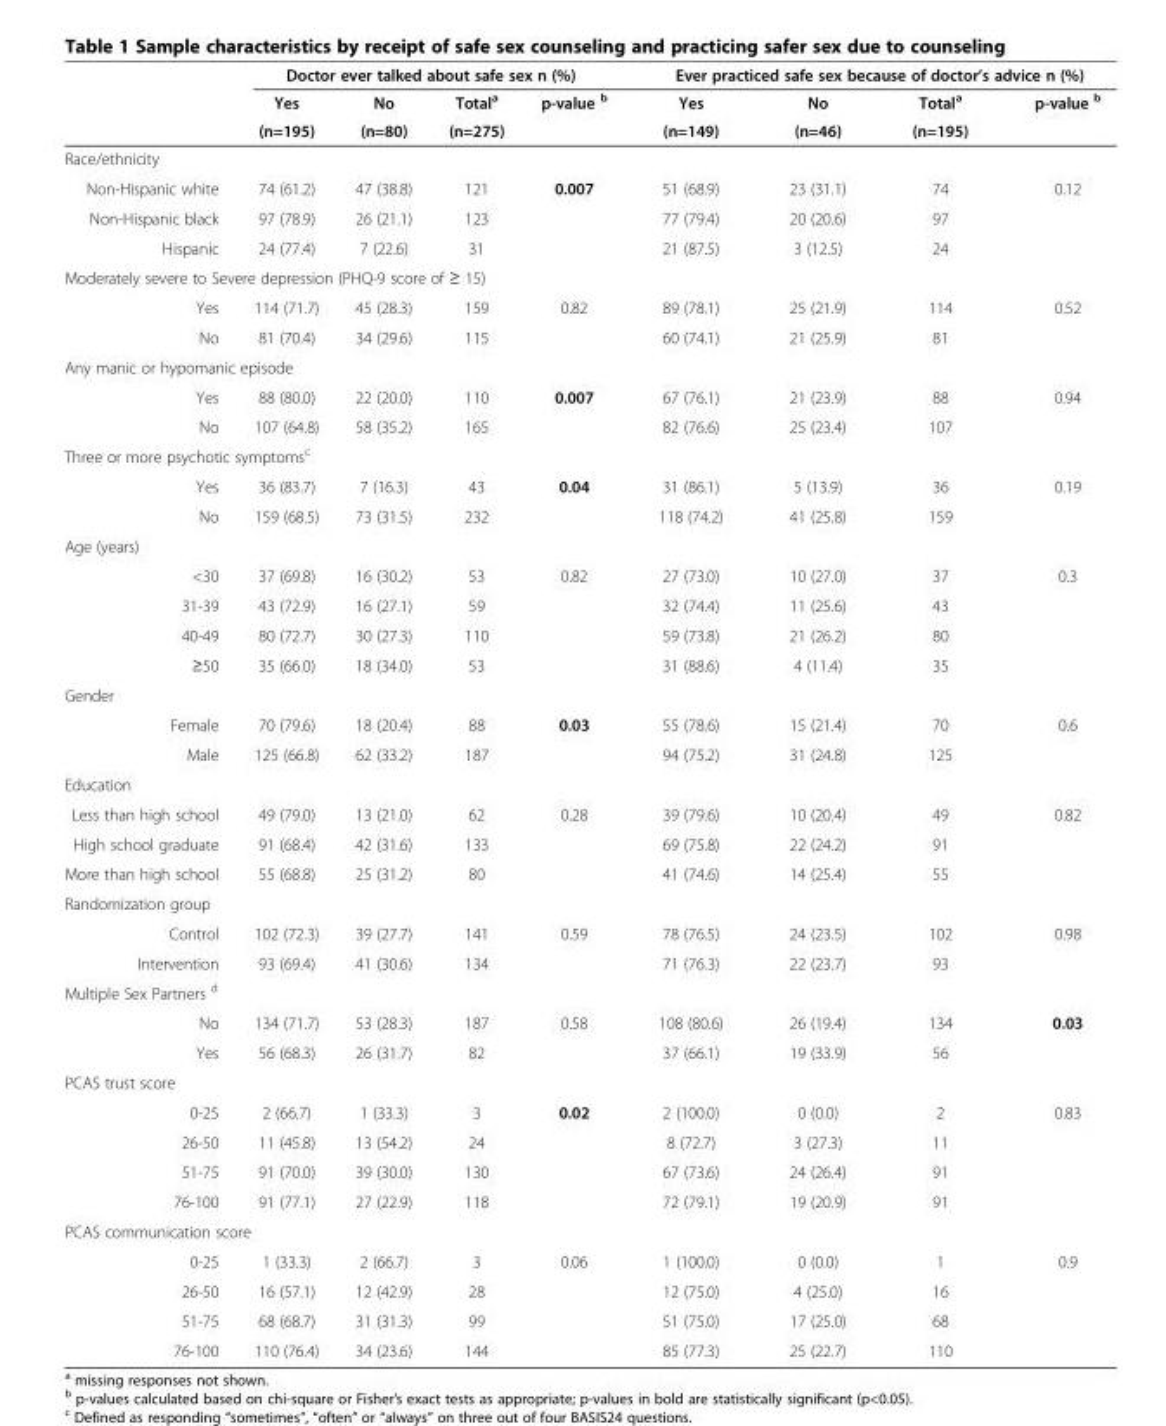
<table><thead><tr><td rowspan="3"></td><td colspan="4">Doctor ever talked about safe sex n (%)</td><td colspan="4">Ever practiced safe sex because of doctor’s advice n (%)</td></tr><tr><td rowspan="2">Yes (n=195)</td><td rowspan="2">No (n=80)</td><td rowspan="2">Total<sup>a</sup> (n=275)</td><td rowspan="2">p-value <sup>b</sup></td><td rowspan="2">Yes (n=149)</td><td rowspan="2">No (n=46)</td><td rowspan="2">Total<sup>a</sup> (n=195)</td><td rowspan="2">p-value <sup>b</sup></td></tr><tr></tr></thead><tbody><tr><td colspan="9">Race/ethnicity</td></tr><tr><td>Non-Hispanic white</td><td>74 (61.2)</td><td>47 (38.8)</td><td>121</td><td>0.007</td><td>51 (68.9)</td><td>23 (31.1)</td><td>74</td><td>0.12</td></tr><tr><td>Non-Hispanic black</td><td>97 (78.9)</td><td>26 (21.1)</td><td>123</td><td></td><td>77 (79.4)</td><td>20 (20.6)</td><td>97</td><td></td></tr><tr><td>Hispanic</td><td>24 (77.4)</td><td>7 (22.6)</td><td>31</td><td></td><td>21 (87.5)</td><td>3 (12.5)</td><td>24</td><td></td></tr><tr><td colspan="9">Moderately severe to Severe depression (PHQ-9 score of ≥ 15)</td></tr><tr><td>Yes</td><td>114 (71.7)</td><td>45 (28.3)</td><td>159</td><td>0.82</td><td>89 (78.1)</td><td>25 (21.9)</td><td>114</td><td>0.52</td></tr><tr><td>No</td><td>81 (70.4)</td><td>34 (29.6)</td><td>115</td><td></td><td>60 (74.1)</td><td>21 (25.9)</td><td>81</td><td></td></tr><tr><td colspan="9">Any manic or hypomanic episode</td></tr><tr><td>Yes</td><td>88 (80.0)</td><td>22 (20.0)</td><td>110</td><td>0.007</td><td>67 (76.1)</td><td>21 (23.9)</td><td>88</td><td>0.94</td></tr><tr><td>No</td><td>107 (64.8)</td><td>58 (35.2)</td><td>165</td><td></td><td>82 (76.6)</td><td>25 (23.4)</td><td>107</td><td></td></tr><tr><td colspan="9">Three or more psychotic symptoms<sup>c</sup></td></tr><tr><td>Yes</td><td>36 (83.7)</td><td>7 (16.3)</td><td>43</td><td>0.04</td><td>31 (86.1)</td><td>5 (13.9)</td><td>36</td><td>0.19</td></tr><tr><td>No</td><td>159 (68.5)</td><td>73 (31.5)</td><td>232</td><td></td><td>118 (74.2)</td><td>41 (25.8)</td><td>159</td><td></td></tr><tr><td colspan="9">Age (years)</td></tr><tr><td>&lt;30</td><td>37 (69.8)</td><td>16 (30.2)</td><td>53</td><td>0.82</td><td>27 (73.0)</td><td>10 (27.0)</td><td>37</td><td>0.3</td></tr><tr><td>31-39</td><td>43 (72.9)</td><td>16 (27.1)</td><td>59</td><td></td><td>32 (74.4)</td><td>11 (25.6)</td><td>43</td><td></td></tr><tr><td>40-49</td><td>80 (72.7)</td><td>30 (27.3)</td><td>110</td><td></td><td>59 (73.8)</td><td>21 (26.2)</td><td>80</td><td></td></tr><tr><td>≥50</td><td>35 (66.0)</td><td>18 (34.0)</td><td>53</td><td></td><td>31 (88.6)</td><td>4 (11.4)</td><td>35</td><td></td></tr><tr><td colspan="9">Gender</td></tr><tr><td>Female</td><td>70 (79.6)</td><td>18 (20.4)</td><td>88</td><td>0.03</td><td>55 (78.6)</td><td>15 (21.4)</td><td>70</td><td>0.6</td></tr><tr><td>Male</td><td>125 (66.8)</td><td>62 (33.2)</td><td>187</td><td></td><td>94 (75.2)</td><td>31 (24.8)</td><td>125</td><td></td></tr><tr><td colspan="9">Education</td></tr><tr><td>Less than high school</td><td>49 (79.0)</td><td>13 (21.0)</td><td>62</td><td>0.28</td><td>39 (79.6)</td><td>10 (20.4)</td><td>49</td><td>0.82</td></tr><tr><td>High school graduate</td><td>91 (68.4)</td><td>42 (31.6)</td><td>133</td><td></td><td>69 (75.8)</td><td>22 (24.2)</td><td>91</td><td></td></tr><tr><td>More than high school</td><td>55 (68.8)</td><td>25 (31.2)</td><td>80</td><td></td><td>41 (74.6)</td><td>14 (25.4)</td><td>55</td><td></td></tr><tr><td colspan="9">Randomization group</td></tr><tr><td>Control</td><td>102 (72.3)</td><td>39 (27.7)</td><td>141</td><td>0.59</td><td>78 (76.5)</td><td>24 (23.5)</td><td>102</td><td>0.98</td></tr><tr><td>Intervention</td><td>93 (69.4)</td><td>41 (30.6)</td><td>134</td><td></td><td>71 (76.3)</td><td>22 (23.7)</td><td>93</td><td></td></tr><tr><td colspan="9">Multiple Sex Partners <sup>d</sup></td></tr><tr><td>No</td><td>134 (71.7)</td><td>53 (28.3)</td><td>187</td><td>0.58</td><td>108 (80.6)</td><td>26 (19.4)</td><td>134</td><td>0.03</td></tr><tr><td>Yes</td><td>56 (68.3)</td><td>26 (31.7)</td><td>82</td><td></td><td>37 (66.1)</td><td>19 (33.9)</td><td>56</td><td></td></tr><tr><td colspan="9">PCAS trust score</td></tr><tr><td>0-25</td><td>2 (66.7)</td><td>1 (33.3)</td><td>3</td><td>0.02</td><td>2 (100.0)</td><td>0 (0.0)</td><td>2</td><td>0.83</td></tr><tr><td>26-50</td><td>11 (45.8)</td><td>13 (54.2)</td><td>24</td><td></td><td>8 (72.7)</td><td>3 (27.3)</td><td>11</td><td></td></tr><tr><td>51-75</td><td>91 (70.0)</td><td>39 (30.0)</td><td>130</td><td></td><td>67 (73.6)</td><td>24 (26.4)</td><td>91</td><td></td></tr><tr><td>76-100</td><td>91 (77.1)</td><td>27 (22.9)</td><td>118</td><td></td><td>72 (79.1)</td><td>19 (20.9)</td><td>91</td><td></td></tr><tr><td colspan="9">PCAS communication score</td></tr><tr><td>0-25</td><td>1 (33.3)</td><td>2 (66.7)</td><td>3</td><td>0.06</td><td>1 (100.0)</td><td>0 (0.0)</td><td>1</td><td>0.9</td></tr><tr><td>26-50</td><td>16 (57.1)</td><td>12 (42.9)</td><td>28</td><td></td><td>12 (75.0)</td><td>4 (25.0)</td><td>16</td><td></td></tr><tr><td>51-75</td><td>68 (68.7)</td><td>31 (31.3)</td><td>99</td><td></td><td>51 (75.0)</td><td>17 (25.0)</td><td>68</td><td></td></tr><tr><td>76-100</td><td>110 (76.4)</td><td>34 (23.6)</td><td>144</td><td></td><td>85 (77.3)</td><td>25 (22.7)</td><td>110</td><td></td></tr></tbody></table>